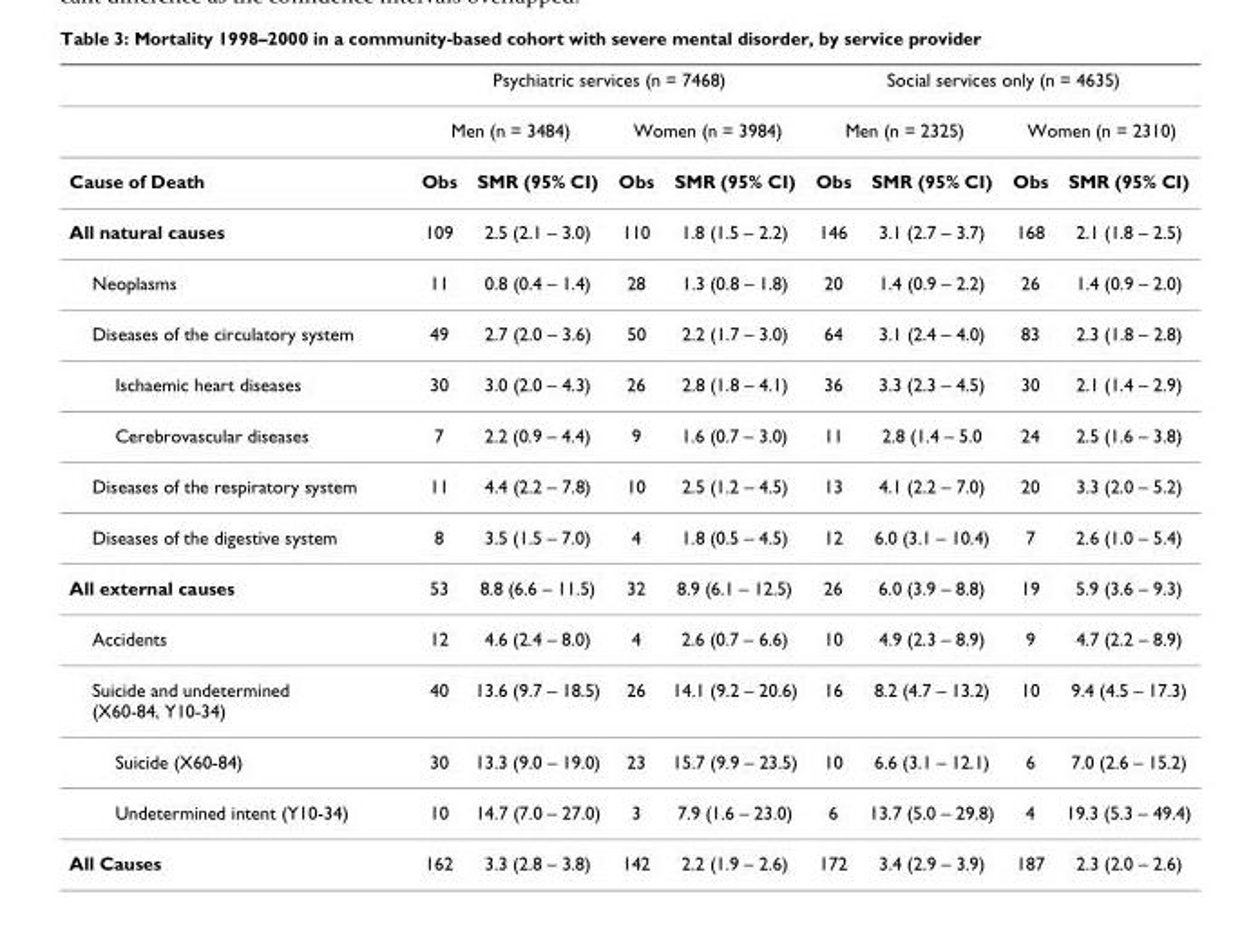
<table><thead><tr><td rowspan="3">Cause of Death</td><td colspan="4">Psychiatric services (n = 7468)</td><td colspan="4">Social services only (n = 4635)</td></tr><tr><td colspan="2">Men (n = 3484)</td><td colspan="2">Women (n = 3984)</td><td colspan="2">Men (n = 2325)</td><td colspan="2">Women (n = 2310)</td></tr><tr><td>Obs</td><td>SMR (95% CI)</td><td>Obs</td><td>SMR (95% CI)</td><td>Obs</td><td>SMR (95% CI)</td><td>Obs</td><td>SMR (95% CI)</td></tr></thead><tbody><tr><td>All natural causes</td><td>109</td><td>2.5 (2.1 – 3.0)</td><td>110</td><td>1.8 (1.5 – 2.2)</td><td>146</td><td>3.1 (2.7 – 3.7)</td><td>168</td><td>2.1 (1.8 – 2.5)</td></tr><tr><td>Neoplasms</td><td>11</td><td>0.8 (0.4 – 1.4)</td><td>28</td><td>1.3 (0.8 – 1.8)</td><td>20</td><td>1.4 (0.9 – 2.2)</td><td>26</td><td>1.4 (0.9 – 2.0)</td></tr><tr><td>Diseases of the circulatory system</td><td>49</td><td>2.7 (2.0 – 3.6)</td><td>50</td><td>2.2 (1.7 – 3.0)</td><td>64</td><td>3.1 (2.4 – 4.0)</td><td>83</td><td>2.3 (1.8 – 2.8)</td></tr><tr><td>Ischaemic heart diseases</td><td>30</td><td>3.0 (2.0 – 4.3)</td><td>26</td><td>2.8 (1.8 – 4.1)</td><td>36</td><td>3.3 (2.3 – 4.5)</td><td>30</td><td>2.1 (1.4 – 2.9)</td></tr><tr><td>Cerebrovascular diseases</td><td>7</td><td>2.2 (0.9 – 4.4)</td><td>9</td><td>1.6 (0.7 – 3.0)</td><td>11</td><td>2.8 (1.4 – 5.0</td><td>24</td><td>2.5 (1.6 – 3.8)</td></tr><tr><td>Diseases of the respiratory system</td><td>11</td><td>4.4 (2.2 – 7.8)</td><td>10</td><td>2.5 (1.2 – 4.5)</td><td>13</td><td>4.1 (2.2 – 7.0)</td><td>20</td><td>3.3 (2.0 – 5.2)</td></tr><tr><td>Diseases of the digestive system</td><td>8</td><td>3.5 (1.5 – 7.0)</td><td>4</td><td>1.8 (0.5 – 4.5)</td><td>12</td><td>6.0 (3.1 – 10.4)</td><td>7</td><td>2.6 (1.0 – 5.4)</td></tr><tr><td>All external causes</td><td>53</td><td>8.8 (6.6 – 11.5)</td><td>32</td><td>8.9 (6.1 – 12.5)</td><td>26</td><td>6.0 (3.9 – 8.8)</td><td>19</td><td>5.9 (3.6 – 9.3)</td></tr><tr><td>Accidents</td><td>12</td><td>4.6 (2.4 – 8.0)</td><td>4</td><td>2.6 (0.7 – 6.6)</td><td>10</td><td>4.9 (2.3 – 8.9)</td><td>9</td><td>4.7 (2.2 – 8.9)</td></tr><tr><td>Suicide and undetermined (X60-84, Y10-34)</td><td>40</td><td>13.6 (9.7 – 18.5)</td><td>26</td><td>14.1 (9.2 – 20.6)</td><td>16</td><td>8.2 (4.7 – 13.2)</td><td>10</td><td>9.4 (4.5 – 17.3)</td></tr><tr><td>Suicide (X60-84)</td><td>30</td><td>13.3 (9.0 – 19.0)</td><td>23</td><td>15.7 (9.9 – 23.5)</td><td>10</td><td>6.6 (3.1 – 12.1)</td><td>6</td><td>7.0 (2.6 – 15.2)</td></tr><tr><td>Undetermined intent (Y10-34)</td><td>10</td><td>14.7 (7.0 – 27.0)</td><td>3</td><td>7.9 (1.6 – 23.0)</td><td>6</td><td>13.7 (5.0 – 29.8)</td><td>4</td><td>19.3 (5.3 – 49.4)</td></tr><tr><td>All Causes</td><td>162</td><td>3.3 (2.8 – 3.8)</td><td>142</td><td>2.2 (1.9 – 2.6)</td><td>172</td><td>3.4 (2.9 – 3.9)</td><td>187</td><td>2.3 (2.0 – 2.6)</td></tr></tbody></table>